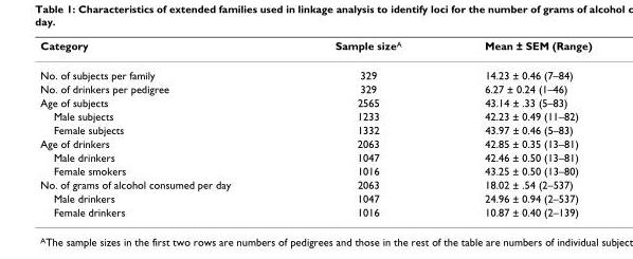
<table><thead><tr><td>Category</td><td>Sample sizeA</td><td>Mean ± SEM (Range)</td></tr></thead><tbody><tr><td>No. of subjects per family</td><td>329</td><td>14.23 ± 0.46 (7–84)</td></tr><tr><td>No. of drinkers per pedigree</td><td>329</td><td>6.27 ± 0.24 (1–46)</td></tr><tr><td>Age of subjects</td><td>2565</td><td>43.14 ± .33 (5–83)</td></tr><tr><td>Male subjects</td><td>1233</td><td>42.23 ± 0.49 (11–82)</td></tr><tr><td>Female subjects</td><td>1332</td><td>43.97 ± 0.46 (5–83)</td></tr><tr><td>Age of drinkers</td><td>2063</td><td>42.85 ± 0.35 (13–81)</td></tr><tr><td>Male drinkers</td><td>1047</td><td>42.46 ± 0.50 (13–81)</td></tr><tr><td>Female smokers</td><td>1016</td><td>43.25 ± 0.50 (13–80)</td></tr><tr><td>No. of grams of alcohol consumed per day</td><td>2063</td><td>18.02 ± .54 (2–537)</td></tr><tr><td>Male drinkers</td><td>1047</td><td>24.96 ± 0.94 (2–537)</td></tr><tr><td>Female drinkers</td><td>1016</td><td>10.87 ± 0.40 (2–139)</td></tr></tbody></table>